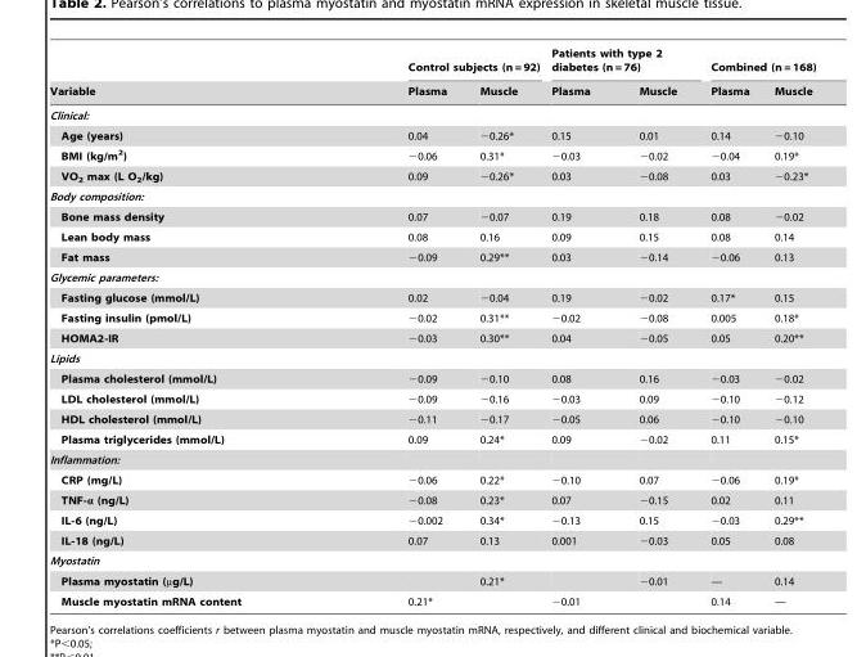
<table><thead><tr><td rowspan="2">Variable</td><td colspan="2">Control subjects (n = 92)</td><td colspan="2">Patients with type 2 diabetes (n = 76)</td><td colspan="2">Combined (n = 168)</td></tr><tr><td>Plasma</td><td>Muscle</td><td>Plasma</td><td>Muscle</td><td>Plasma</td><td>Muscle</td></tr></thead><tbody><tr><td colspan="7">Clinical:</td></tr><tr><td>Age (years)</td><td>0.04</td><td>−0.26*</td><td>0.15</td><td>0.01</td><td>0.14</td><td>−0.10</td></tr><tr><td>BMI (kg/m<sup>2</sup>)</td><td>−0.06</td><td>0.31*</td><td>−0.03</td><td>−0.02</td><td>−0.04</td><td>0.19*</td></tr><tr><td>VO<sub>2</sub> max (L O<sub>2</sub>/kg)</td><td>0.09</td><td>−0.26*</td><td>0.03</td><td>−0.08</td><td>0.03</td><td>−0.23*</td></tr><tr><td colspan="7">Body composition:</td></tr><tr><td>Bone mass density</td><td>0.07</td><td>−0.07</td><td>0.19</td><td>0.18</td><td>0.08</td><td>−0.02</td></tr><tr><td>Lean body mass</td><td>0.08</td><td>0.16</td><td>0.09</td><td>0.15</td><td>0.08</td><td>0.14</td></tr><tr><td>Fat mass</td><td>−0.09</td><td>0.29**</td><td>0.03</td><td>−0.14</td><td>−0.06</td><td>0.13</td></tr><tr><td colspan="7">Glycemic parameters:</td></tr><tr><td>Fasting glucose (mmol/L)</td><td>0.02</td><td>−0.04</td><td>0.19</td><td>−0.02</td><td>0.17*</td><td>0.15</td></tr><tr><td>Fasting insulin (pmol/L)</td><td>−0.02</td><td>0.31**</td><td>−0.02</td><td>−0.08</td><td>0.005</td><td>0.18*</td></tr><tr><td>HOMA2-IR</td><td>−0.03</td><td>0.30**</td><td>0.04</td><td>−0.05</td><td>0.05</td><td>0.20**</td></tr><tr><td colspan="7">Lipids</td></tr><tr><td>Plasma cholesterol (mmol/L)</td><td>−0.09</td><td>−0.10</td><td>0.08</td><td>0.16</td><td>−0.03</td><td>−0.02</td></tr><tr><td>LDL cholesterol (mmol/L)</td><td>−0.09</td><td>−0.16</td><td>−0.03</td><td>0.09</td><td>−0.10</td><td>−0.12</td></tr><tr><td>HDL cholesterol (mmol/L)</td><td>−0.11</td><td>−0.17</td><td>−0.05</td><td>0.06</td><td>−0.10</td><td>−0.10</td></tr><tr><td>Plasma triglycerides (mmol/L)</td><td>0.09</td><td>0.24*</td><td>0.09</td><td>−0.02</td><td>0.11</td><td>0.15*</td></tr><tr><td colspan="7">Inflammation:</td></tr><tr><td>CRP (mg/L)</td><td>−0.06</td><td>0.22*</td><td>−0.10</td><td>0.07</td><td>−0.06</td><td>0.19*</td></tr><tr><td>TNF-α (ng/L)</td><td>−0.08</td><td>0.23*</td><td>0.07</td><td>−0.15</td><td>0.02</td><td>0.11</td></tr><tr><td>IL-6 (ng/L)</td><td>−0.002</td><td>0.34*</td><td>−0.13</td><td>0.15</td><td>−0.03</td><td>0.29**</td></tr><tr><td>IL-18 (ng/L)</td><td>0.07</td><td>0.13</td><td>0.001</td><td>−0.03</td><td>0.05</td><td>0.08</td></tr><tr><td colspan="7">Myostatin</td></tr><tr><td>Plasma myostatin (µg/L)</td><td></td><td>0.21*</td><td></td><td>−0.01</td><td>—</td><td>0.14</td></tr><tr><td>Muscle myostatin mRNA content</td><td>0.21*</td><td></td><td>−0.01</td><td></td><td>0.14</td><td>—</td></tr></tbody></table>